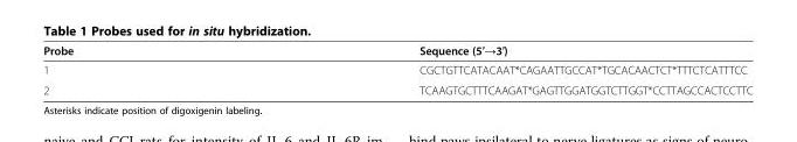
<table><thead><tr><td>Probe</td><td>Sequence (5′→3′)</td></tr></thead><tbody><tr><td>1</td><td>CGCTGTTCATACAAT*CAGAATTGCCAT*TGCACAACTCT*TTTCTCATTTCC</td></tr><tr><td>2</td><td>TCAAGTGCTTTCAAGAT*GAGTTGGATGGTCTTGGT*CCTTAGCCACTCCTTC</td></tr></tbody></table>